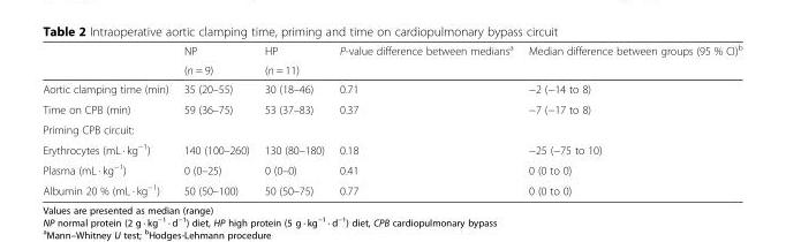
<table><thead><tr><td rowspan="2"></td><td rowspan="2">NP (n = 9)</td><td rowspan="2">HP (n = 11)</td><td rowspan="2">P-value difference between medians<sup>a</sup></td><td rowspan="2">Median difference between groups (95 % CI)<sup>b</sup></td></tr><tr></tr></thead><tbody><tr><td>Aortic clamping time (min)</td><td>35 (20–55)</td><td>30 (18–46)</td><td>0.71</td><td>−2 (−14 to 8)</td></tr><tr><td>Time on CPB (min)</td><td>59 (36–75)</td><td>53 (37–83)</td><td>0.37</td><td>−7 (−17 to 8)</td></tr><tr><td colspan="5">Priming CPB circuit:</td></tr><tr><td>Erythrocytes (mL · kg<sup>−1</sup>)</td><td>140 (100–260)</td><td>130 (80–180)</td><td>0.18</td><td>−25 (−75 to 10)</td></tr><tr><td>Plasma (mL · kg<sup>−1</sup>)</td><td>0 (0–25)</td><td>0 (0–0)</td><td>0.41</td><td>0 (0 to 0)</td></tr><tr><td>Albumin 20 % (mL · kg<sup>−1</sup>)</td><td>50 (50–100)</td><td>50 (50–75)</td><td>0.77</td><td>0 (0 to 0)</td></tr></tbody></table>